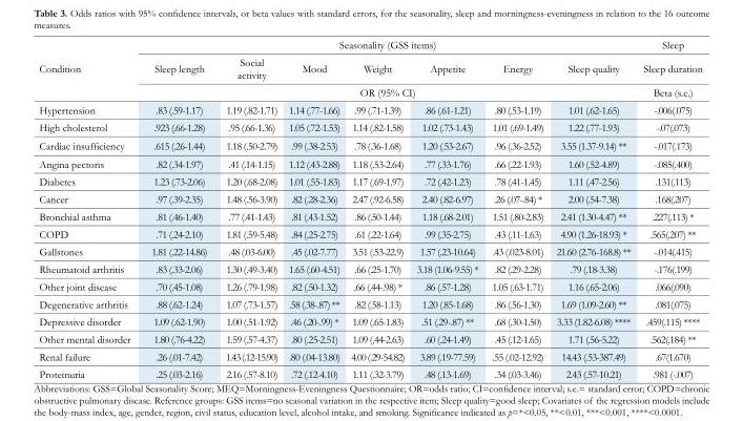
<table><thead><tr><td rowspan="3">Condition</td><td colspan="7">Seasonality (GSS items)</td><td rowspan="3">Sleep Sleep duration Beta (s.e.)</td></tr><tr><td>Sleep length</td><td>Social activity</td><td>Mood</td><td>Weight</td><td>Appetite</td><td>Energy</td><td>Sleep quality</td></tr><tr><td colspan="7">OR (95% CI)</td></tr></thead><tbody><tr><td>Hypertension</td><td>.83 (.59-1.17)</td><td>1.19 (.82-1.71)</td><td>1.14 (.77-1.66)</td><td>.99 (.71-1.39)</td><td>.86 (.61-1.21)</td><td>.80 (.53-1.19)</td><td>1.01 (.62-1.65)</td><td>-.006(.075)</td></tr><tr><td>High cholesterol</td><td>.923 (.66-1.28)</td><td>.95 (.66-1.36)</td><td>1.05 (.72-1.53)</td><td>1.14 (.82-1.58)</td><td>1.02 (.73-1.43)</td><td>1.01 (.69-1.49)</td><td>1.22 (.77-1.93)</td><td>-.07(.073)</td></tr><tr><td>Cardiac insufficiency</td><td>.615 (.26-1.44)</td><td>1.18 (.50-2.79)</td><td>.99 (.38-2.53)</td><td>.78 (.36-1.68)</td><td>1.20 (.53-2.67)</td><td>.96 (.36-2.52)</td><td>3.55 (1.37-9.14) **</td><td>-.017(.173)</td></tr><tr><td>Angina pectoris</td><td>.82 (.34-1.97)</td><td>.41 (.14-1.15)</td><td>1.12 (.43-2.88)</td><td>1.18 (.53-2.64)</td><td>.77 (.33-1.76)</td><td>.66 (.22-1.93)</td><td>1.60 (.52-4.89)</td><td>-.085(.400)</td></tr><tr><td>Diabetes</td><td>1.23 (.73-2.06)</td><td>1.20 (.68-2.08)</td><td>1.01 (.55-1.83)</td><td>1.17 (.69-1.97)</td><td>.72 (.42-1.23)</td><td>.78 (.41-1.45)</td><td>1.11 (.47-2.56)</td><td>.131(.113)</td></tr><tr><td>Cancer</td><td>.97 (.39-2.35)</td><td>1.48 (.56-3.90)</td><td>.82 (.28-2.36)</td><td>2.47 (.92-6.58)</td><td>2.40 (.82-6.97)</td><td>.26 (.07-.84) *</td><td>2.00 (.54-7.38)</td><td>.168(.207)</td></tr><tr><td>Bronchial asthma</td><td>.81 (.46-1.40)</td><td>.77 (.41-1.43)</td><td>.81 (.43-1.52)</td><td>.86 (.50-1.44)</td><td>1.18 (.68-2.01)</td><td>1.51 (.80-2.83)</td><td>2.41 (1.30-4.47) **</td><td>.227(.113) *</td></tr><tr><td>COPD</td><td>.71 (.24-2.10)</td><td>1.81 (.59-5.48)</td><td>.84 (.25-2.75)</td><td>.61 (.22-1.64)</td><td>.99 (.35-2.75)</td><td>.43 (.11-1.63)</td><td>4.90 (1.26-18.93) *</td><td>.565(.207) **</td></tr><tr><td>Gallstones</td><td>1.81 (.22-14.86)</td><td>.48 (.03-6.00)</td><td>.45 (.02-7.77)</td><td>3.51 (.53-22.9)</td><td>1.57 (.23-10.64)</td><td>.43 (.023-8.01)</td><td>21.60 (2.76-168.8) **</td><td>-.014(.415)</td></tr><tr><td>Rheumatoid arthritis</td><td>.83 (.33-2.06)</td><td>1.30 (.49-3.40)</td><td>1.65 (.60-4.51)</td><td>.66 (.25-1.70)</td><td>3.18 (1.06-9.55) *</td><td>.82 (.29-2.28)</td><td>.79 (.18-3.38)</td><td>-.176(.199)</td></tr><tr><td>Other joint disease</td><td>.70 (.45-1.08)</td><td>1.26 (.79-1.98)</td><td>.82 (.50-1.32)</td><td>.66 (.44-.98) *</td><td>.86 (.57-1.28)</td><td>1.05 (.63-1.71)</td><td>1.16 (.65-2.06)</td><td>.066(.090)</td></tr><tr><td>Degenerative arthritis</td><td>.88 (.62-1.24)</td><td>1.07 (.73-1.57)</td><td>.58 (.38-.87) **</td><td>.82 (.58-1.13)</td><td>1.20 (.85-1.68)</td><td>.86 (.56-1.30)</td><td>1.69 (1.09-2.60) **</td><td>.081(.075)</td></tr><tr><td>Depressive disorder</td><td>1.09 (.62-1.90)</td><td>1.00 (.51-1.92)</td><td>.46 (.20-.99) *</td><td>1.09 (.65-1.83)</td><td>.51 (.29-.87) **</td><td>.68 (.30-1.50)</td><td>3.33 (1.82-6.08) ****</td><td>.459(.115) ****</td></tr><tr><td>Other mental disorder</td><td>1.80 (.76-4.22)</td><td>1.59 (.57-4.37)</td><td>.80 (.25-2.51)</td><td>1.09 (.44-2.63)</td><td>.60 (.24-1.49)</td><td>.45 (.12-1.65)</td><td>1.71 (.56-5.22)</td><td>.562(.184) **</td></tr><tr><td>Renal failure</td><td>.26 (.01-7.42)</td><td>1.43 (.12-15.90)</td><td>.80 (.04-13.80)</td><td>4.00 (.29-54.82)</td><td>3.89 (.19-77.59)</td><td>.55 (.02-12.92)</td><td>14.43 (.53-387.49)</td><td>.67(1.670)</td></tr><tr><td>Proteinuria</td><td>.25 (.03-2.16)</td><td>2.16 (.57-8.10)</td><td>.72 (.12-4.10)</td><td>1.11 (.32-3.79)</td><td>.48 (.13-1.69)</td><td>.34 (.03-3.46)</td><td>2.43 (.57-10.21)</td><td>.981 (-.007)</td></tr></tbody></table>